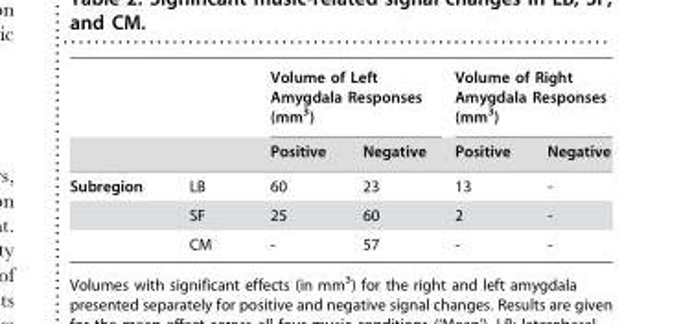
<table><thead><tr><td rowspan="2"></td><td rowspan="2"></td><td colspan="2">Volume of Left Amygdala Responses (mm<sup>3</sup>)</td><td colspan="2">Volume of Right Amygdala Responses (mm<sup>3</sup>)</td></tr><tr><td>Positive</td><td>Negative</td><td>Positive</td><td>Negative</td></tr></thead><tbody><tr><td rowspan="3">Subregion</td><td>LB</td><td>60</td><td>23</td><td>13</td><td>-</td></tr><tr><td>SF</td><td>25</td><td>60</td><td>2</td><td>-</td></tr><tr><td>CM</td><td>-</td><td>57</td><td>-</td><td>-</td></tr></tbody></table>